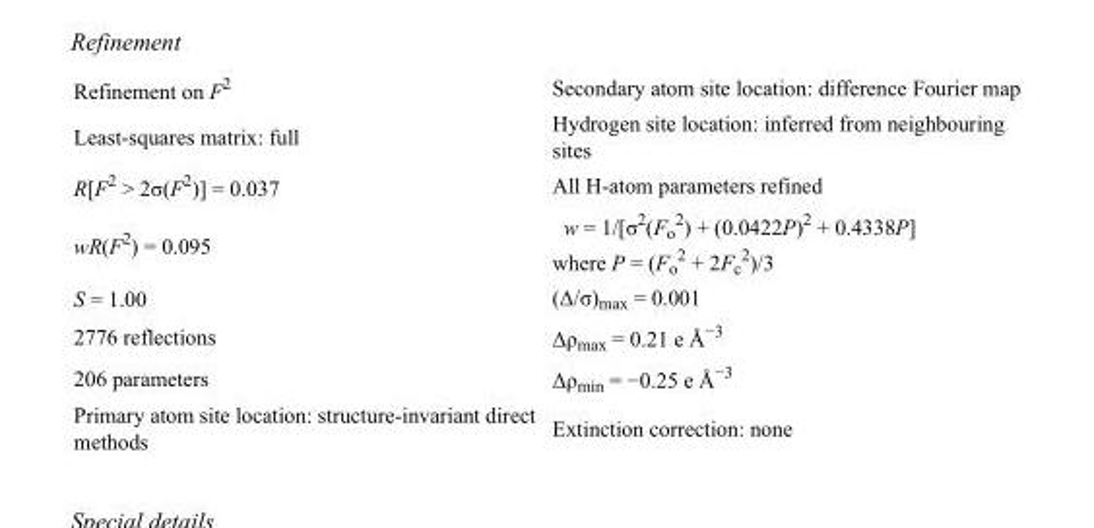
<table><tbody><tr><td>Refinement on F<sup>2</sup></td><td>Secondary atom site location: difference Fourier map</td></tr><tr><td>Least-squares matrix: full</td><td>Hydrogen site location: inferred from neighbouring sites</td></tr><tr><td>R[F<sup>2</sup> &gt; 2σ(F<sup>2</sup>)] = 0.037</td><td>All H-atom parameters refined</td></tr><tr><td>wR(F<sup>2</sup>) = 0.095</td><td>w = 1/[σ<sup>2</sup>(F<sub>o</sub> <sup>2</sup>) + (0.0422P)<sup>2</sup> + 0.4338P] where P = (F<sub>o</sub> <sup>2</sup> + 2F<sub>c</sub> <sup>2</sup>)/3</td></tr><tr><td>S = 1.00</td><td>(Δ/σ)<sub>max</sub> = 0.001</td></tr><tr><td>2776 reflections</td><td>Δρ<sub>max</sub> = 0.21 e Å<sup>−3</sup></td></tr><tr><td>206 parameters</td><td>Δρ<sub>min</sub> = −0.25 e Å<sup>−3</sup></td></tr><tr><td>Primary atom site location: structure-invariant direct methods</td><td>Extinction correction: none</td></tr></tbody></table>